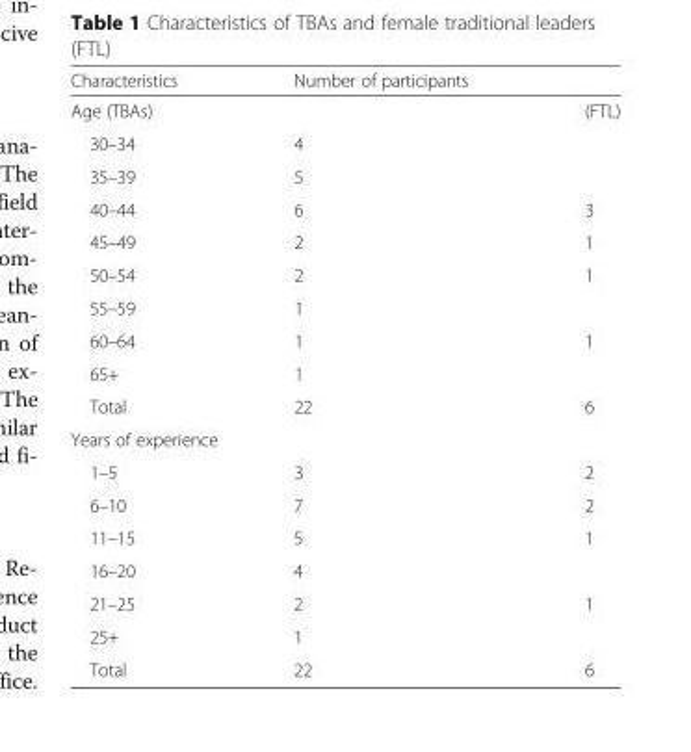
<table><thead><tr><td>Characteristics</td><td>Number of participants</td><td></td></tr></thead><tbody><tr><td>Age (TBAs)</td><td></td><td>(FTL)</td></tr><tr><td>30–34</td><td>4</td><td></td></tr><tr><td>35–39</td><td>5</td><td></td></tr><tr><td>40–44</td><td>6</td><td>3</td></tr><tr><td>45–49</td><td>2</td><td>1</td></tr><tr><td>50–54</td><td>2</td><td>1</td></tr><tr><td>55–59</td><td>1</td><td></td></tr><tr><td>60–64</td><td>1</td><td>1</td></tr><tr><td>65+</td><td>1</td><td></td></tr><tr><td>Total</td><td>22</td><td>6</td></tr><tr><td colspan="3">Years of experience</td></tr><tr><td>1–5</td><td>3</td><td>2</td></tr><tr><td>6–10</td><td>7</td><td>2</td></tr><tr><td>11–15</td><td>5</td><td>1</td></tr><tr><td>16–20</td><td>4</td><td></td></tr><tr><td>21–25</td><td>2</td><td>1</td></tr><tr><td>25+</td><td>1</td><td></td></tr><tr><td>Total</td><td>22</td><td>6</td></tr></tbody></table>